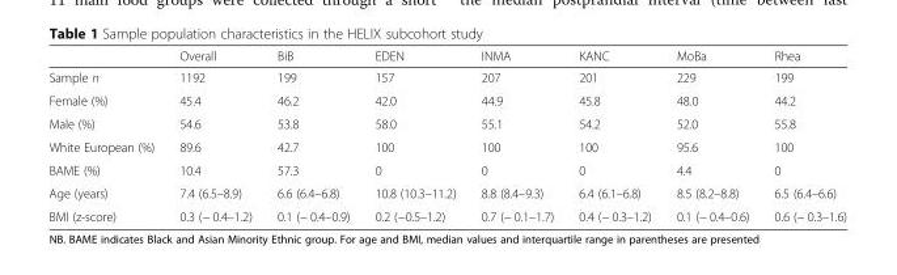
<table><thead><tr><td></td><td>Overall</td><td>BiB</td><td>EDEN</td><td>INMA</td><td>KANC</td><td>MoBa</td><td>Rhea</td></tr></thead><tbody><tr><td>Sample n</td><td>1192</td><td>199</td><td>157</td><td>207</td><td>201</td><td>229</td><td>199</td></tr><tr><td>Female (%)</td><td>45.4</td><td>46.2</td><td>42.0</td><td>44.9</td><td>45.8</td><td>48.0</td><td>44.2</td></tr><tr><td>Male (%)</td><td>54.6</td><td>53.8</td><td>58.0</td><td>55.1</td><td>54.2</td><td>52.0</td><td>55.8</td></tr><tr><td>White European (%)</td><td>89.6</td><td>42.7</td><td>100</td><td>100</td><td>100</td><td>95.6</td><td>100</td></tr><tr><td>BAME (%)</td><td>10.4</td><td>57.3</td><td>0</td><td>0</td><td>0</td><td>4.4</td><td>0</td></tr><tr><td>Age (years)</td><td>7.4 (6.5–8.9)</td><td>6.6 (6.4–6.8)</td><td>10.8 (10.3–11.2)</td><td>8.8 (8.4–9.3)</td><td>6.4 (6.1–6.8)</td><td>8.5 (8.2–8.8)</td><td>6.5 (6.4–6.6)</td></tr><tr><td>BMI (z-score)</td><td>0.3 (− 0.4–1.2)</td><td>0.1 (− 0.4–0.9)</td><td>0.2 (−0.5–1.2)</td><td>0.7 (− 0.1–1.7)</td><td>0.4 (− 0.3–1.2)</td><td>0.1 (− 0.4–0.6)</td><td>0.6 (− 0.3–1.6)</td></tr></tbody></table>